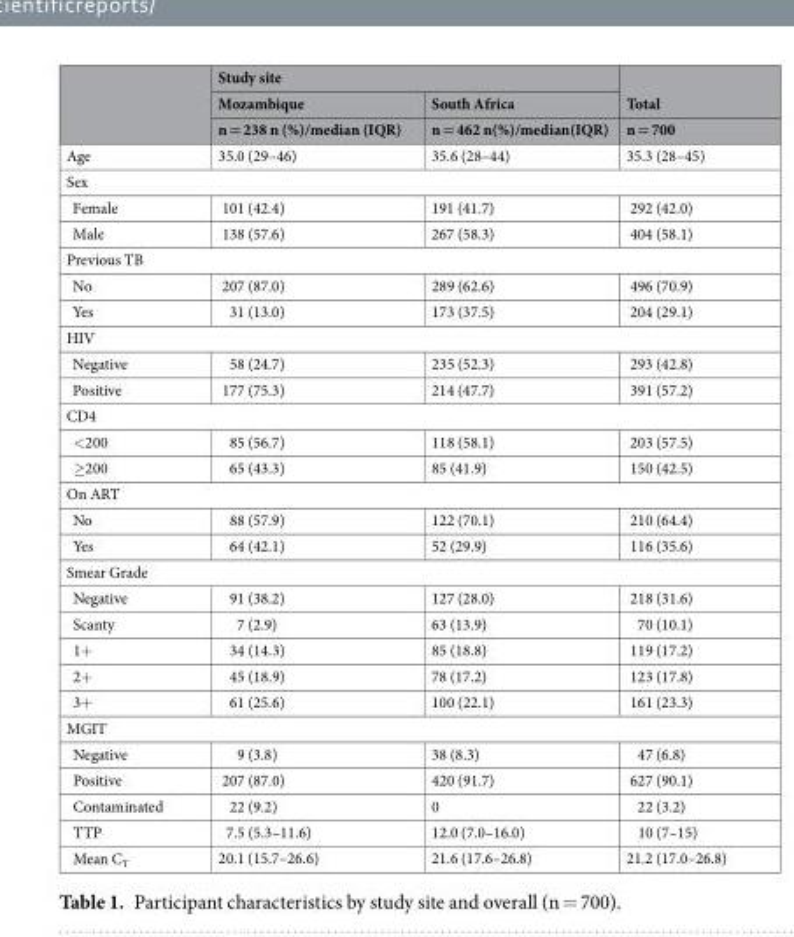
<table><thead><tr><td rowspan="3"></td><td colspan="2">Study site</td><td rowspan="3">Total n = 700</td></tr><tr><td rowspan="2">Mozambique n = 238 n (%)/median (IQR)</td><td rowspan="2">South Africa n = 462 n(%)/median(IQR)</td></tr><tr></tr></thead><tbody><tr><td>Age</td><td>35.0 (29–46)</td><td>35.6 (28–44)</td><td>35.3 (28–45)</td></tr><tr><td colspan="4">Sex</td></tr><tr><td>Female</td><td>101 (42.4)</td><td>191 (41.7)</td><td>292 (42.0)</td></tr><tr><td>Male</td><td>138 (57.6)</td><td>267 (58.3)</td><td>404 (58.1)</td></tr><tr><td colspan="4">Previous TB</td></tr><tr><td>No</td><td>207 (87.0)</td><td>289 (62.6)</td><td>496 (70.9)</td></tr><tr><td>Yes</td><td>31 (13.0)</td><td>173 (37.5)</td><td>204 (29.1)</td></tr><tr><td colspan="4">HIV</td></tr><tr><td>Negative</td><td>58 (24.7)</td><td>235 (52.3)</td><td>293 (42.8)</td></tr><tr><td>Positive</td><td>177 (75.3)</td><td>214 (47.7)</td><td>391 (57.2)</td></tr><tr><td colspan="4">CD4</td></tr><tr><td>&lt;200</td><td>85 (56.7)</td><td>118 (58.1)</td><td>203 (57.5)</td></tr><tr><td>≥200</td><td>65 (43.3)</td><td>85 (41.9)</td><td>150 (42.5)</td></tr><tr><td colspan="4">On ART</td></tr><tr><td>No</td><td>88 (57.9)</td><td>122 (70.1)</td><td>210 (64.4)</td></tr><tr><td>Yes</td><td>64 (42.1)</td><td>52 (29.9)</td><td>116 (35.6)</td></tr><tr><td colspan="4">Smear Grade</td></tr><tr><td>Negative</td><td>91 (38.2)</td><td>127 (28.0)</td><td>218 (31.6)</td></tr><tr><td>Scanty</td><td>7 (2.9)</td><td>63 (13.9)</td><td>70 (10.1)</td></tr><tr><td>1+</td><td>34 (14.3)</td><td>85 (18.8)</td><td>119 (17.2)</td></tr><tr><td>2+</td><td>45 (18.9)</td><td>78 (17.2)</td><td>123 (17.8)</td></tr><tr><td>3+</td><td>61 (25.6)</td><td>100 (22.1)</td><td>161 (23.3)</td></tr><tr><td colspan="4">MGIT</td></tr><tr><td>Negative</td><td>9 (3.8)</td><td>38 (8.3)</td><td>47 (6.8)</td></tr><tr><td>Positive</td><td>207 (87.0)</td><td>420 (91.7)</td><td>627 (90.1)</td></tr><tr><td>Contaminated</td><td>22 (9.2)</td><td>0</td><td>22 (3.2)</td></tr><tr><td>TTP</td><td>7.5 (5.3–11.6)</td><td>12.0 (7.0–16.0)</td><td>10 (7–15)</td></tr><tr><td>Mean C<sub>T</sub></td><td>20.1 (15.7–26.6)</td><td>21.6 (17.6–26.8)</td><td>21.2 (17.0–26.8)</td></tr></tbody></table>